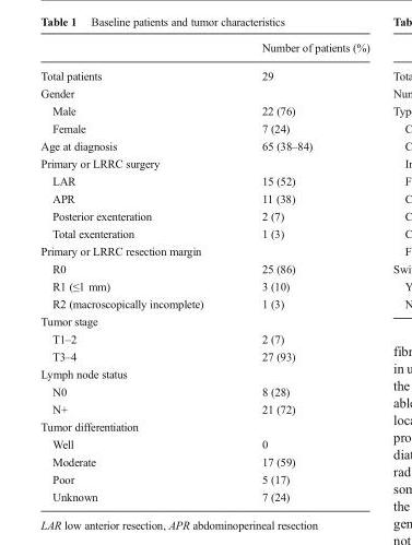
<table><thead><tr><td></td><td>Number of patients (%)</td></tr></thead><tbody><tr><td>Total patients</td><td>29</td></tr><tr><td colspan="2">Gender</td></tr><tr><td>Male</td><td>22 (76)</td></tr><tr><td>Female</td><td>7 (24)</td></tr><tr><td>Age at diagnosis</td><td>65 (38–84)</td></tr><tr><td colspan="2">Primary or LRRC surgery</td></tr><tr><td>LAR</td><td>15 (52)</td></tr><tr><td>APR</td><td>11 (38)</td></tr><tr><td>Posterior exenteration</td><td>2 (7)</td></tr><tr><td>Total exenteration</td><td>1 (3)</td></tr><tr><td colspan="2">Primary or LRRC resection margin</td></tr><tr><td>R0</td><td>25 (86)</td></tr><tr><td>R1 (≤1 mm)</td><td>3 (10)</td></tr><tr><td>R2 (macroscopically incomplete)</td><td>1 (3)</td></tr><tr><td colspan="2">Tumor stage</td></tr><tr><td>T1–2</td><td>2 (7)</td></tr><tr><td>T3–4</td><td>27 (93)</td></tr><tr><td colspan="2">Lymph node status</td></tr><tr><td>N0</td><td>8 (28)</td></tr><tr><td>N+</td><td>21 (72)</td></tr><tr><td colspan="2">Tumor differentiation</td></tr><tr><td>Well</td><td>0</td></tr><tr><td>Moderate</td><td>17 (59)</td></tr><tr><td>Poor</td><td>5 (17)</td></tr><tr><td>Unknown</td><td>7 (24)</td></tr></tbody></table>